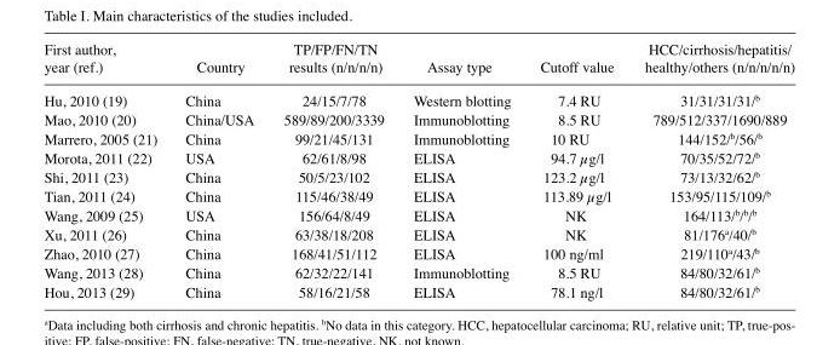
<table><thead><tr><td>First author, year (ref.)</td><td>Country</td><td>TP/FP/FN/TN results (n/n/n/n)</td><td>Assay type</td><td>Cutoff value</td><td>HCC/cirrhosis/hepatitis/ healthy/others (n/n/n/n/n)</td></tr></thead><tbody><tr><td>Hu, 2010 (19)</td><td>China</td><td>24/15/7/78</td><td>Western blotting</td><td>7.4 RU</td><td>31/31/31/31/b</td></tr><tr><td>Mao, 2010 (20)</td><td>China/USA</td><td>589/89/200/3339</td><td>Immunoblotting</td><td>8.5 RU</td><td>789/512/337/1690/889</td></tr><tr><td>Marrero, 2005 (21)</td><td>China</td><td>99/21/45/131</td><td>Immunoblotting</td><td>10 RU</td><td>144/152/b/56/b</td></tr><tr><td>Morota, 2011 (22)</td><td>USA</td><td>62/61/8/98</td><td>ELISA</td><td>94.7 µg/l</td><td>70/35/52/72/b</td></tr><tr><td>Shi, 2011 (23)</td><td>China</td><td>50/5/23/102</td><td>ELISA</td><td>123.2 µg/l</td><td>73/13/32/62/b</td></tr><tr><td>Tian, 2011 (24)</td><td>China</td><td>115/46/38/49</td><td>ELISA</td><td>113.89 µg/l</td><td>153/95/115/109/b</td></tr><tr><td>Wang, 2009 (25)</td><td>USA</td><td>156/64/8/49</td><td>ELISA</td><td>NK</td><td>164/113/b/b/b</td></tr><tr><td>Xu, 2011 (26)</td><td>China</td><td>63/38/18/208</td><td>ELISA</td><td>NK</td><td>81/176<sup>a</sup>/40/b</td></tr><tr><td>Zhao, 2010 (27)</td><td>China</td><td>168/41/51/112</td><td>ELISA</td><td>100 ng/ml</td><td>219/110<sup>a</sup>/43/b</td></tr><tr><td>Wang, 2013 (28)</td><td>China</td><td>62/32/22/141</td><td>Immunoblotting</td><td>8.5 RU</td><td>84/80/32/61/b</td></tr><tr><td>Hou, 2013 (29)</td><td>China</td><td>58/16/21/58</td><td>ELISA</td><td>78.1 ng/l</td><td>84/80/32/61/b</td></tr></tbody></table>